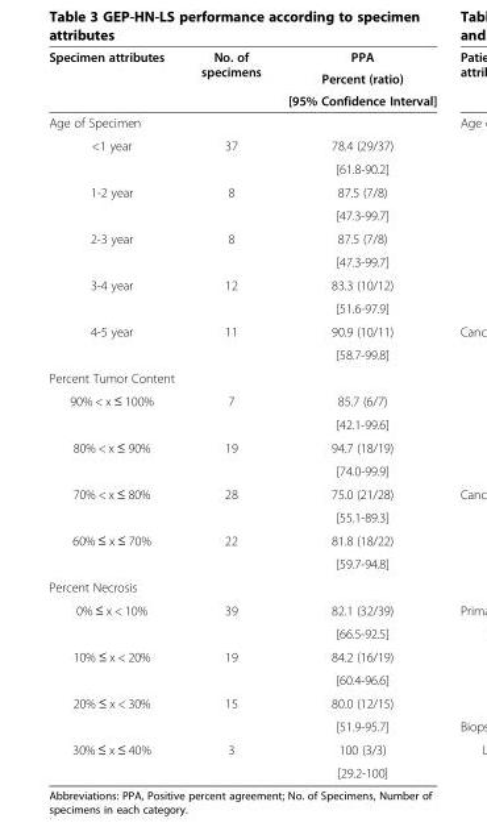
<table><thead><tr><td rowspan="3">Specimen attributes</td><td rowspan="3">No. of specimens</td><td rowspan="3">PPA Percent (ratio) [95% Confidence Interval]</td></tr><tr></tr><tr></tr></thead><tbody><tr><td colspan="3">Age of Specimen</td></tr><tr><td rowspan="2">&lt;1 year</td><td rowspan="2">37</td><td>78.4 (29/37)</td></tr><tr><td>[61.8-90.2]</td></tr><tr><td rowspan="2">1-2 year</td><td rowspan="2">8</td><td>87.5 (7/8)</td></tr><tr><td>[47.3-99.7]</td></tr><tr><td rowspan="2">2-3 year</td><td rowspan="2">8</td><td>87.5 (7/8)</td></tr><tr><td>[47.3-99.7]</td></tr><tr><td rowspan="2">3-4 year</td><td rowspan="2">12</td><td>83.3 (10/12)</td></tr><tr><td>[51.6-97.9]</td></tr><tr><td rowspan="2">4-5 year</td><td rowspan="2">11</td><td>90.9 (10/11)</td></tr><tr><td>[58.7-99.8]</td></tr><tr><td colspan="3">Percent Tumor Content</td></tr><tr><td rowspan="2">90% &lt; x ≤ 100%</td><td rowspan="2">7</td><td>85.7 (6/7)</td></tr><tr><td>[42.1-99.6]</td></tr><tr><td rowspan="2">80% &lt; x ≤ 90%</td><td rowspan="2">19</td><td>94.7 (18/19)</td></tr><tr><td>[74.0-99.9]</td></tr><tr><td rowspan="2">70% &lt; x ≤ 80%</td><td rowspan="2">28</td><td>75.0 (21/28)</td></tr><tr><td>[55.1-89.3]</td></tr><tr><td rowspan="2">60% ≤ x ≤ 70%</td><td rowspan="2">22</td><td>81.8 (18/22)</td></tr><tr><td>[59.7-94.8]</td></tr><tr><td colspan="3">Percent Necrosis</td></tr><tr><td rowspan="2">0% ≤ x &lt; 10%</td><td rowspan="2">39</td><td>82.1 (32/39)</td></tr><tr><td>[66.5-92.5]</td></tr><tr><td rowspan="2">10% ≤ x &lt; 20%</td><td rowspan="2">19</td><td>84.2 (16/19)</td></tr><tr><td>[60.4-96.6]</td></tr><tr><td rowspan="2">20% ≤ x &lt; 30%</td><td rowspan="2">15</td><td>80.0 (12/15)</td></tr><tr><td>[51.9-95.7]</td></tr><tr><td rowspan="2">30% ≤ x ≤ 40%</td><td rowspan="2">3</td><td>100 (3/3)</td></tr><tr><td>[29.2-100]</td></tr></tbody></table>